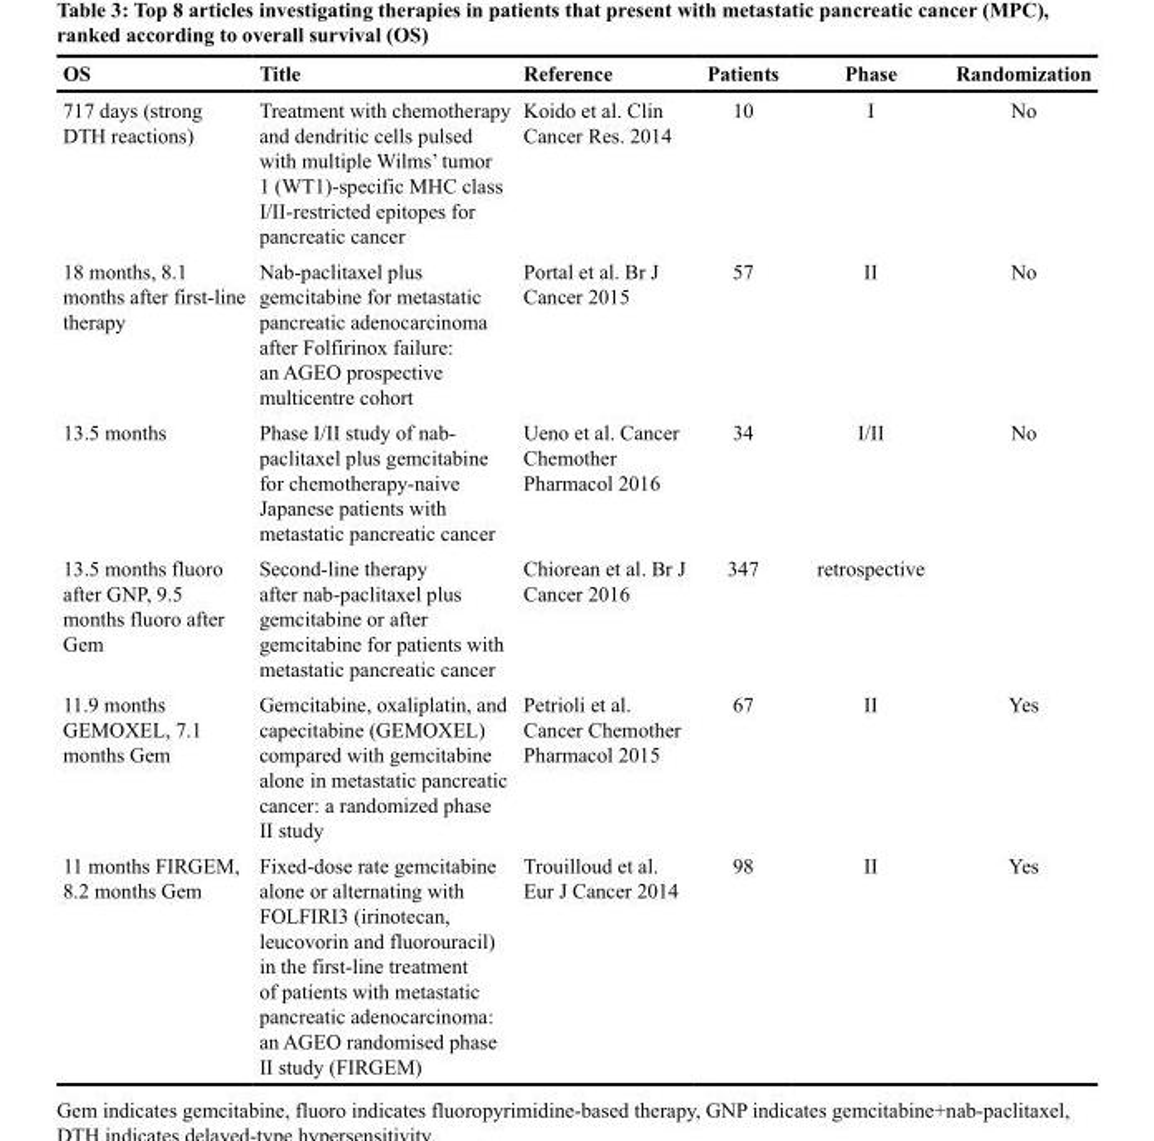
<table><thead><tr><td>OS</td><td>Title</td><td>Reference</td><td>Patients</td><td>Phase</td><td>Randomization</td></tr></thead><tbody><tr><td>717 days (strong DTH reactions)</td><td>Treatment with chemotherapy and dendritic cells pulsed with multiple Wilms’ tumor 1 (WT1)-specific MHC class I/II-restricted epitopes for pancreatic cancer</td><td>Koido et al. Clin Cancer Res. 2014</td><td>10</td><td>I</td><td>No</td></tr><tr><td>18 months, 8.1 months after first-line therapy</td><td>Nab-paclitaxel plus gemcitabine for metastatic pancreatic adenocarcinoma after Folfirinox failure: an AGEO prospective multicentre cohort</td><td>Portal et al. Br J Cancer 2015</td><td>57</td><td>II</td><td>No</td></tr><tr><td>13.5 months</td><td>Phase I/II study of nab- paclitaxel plus gemcitabine for chemotherapy-naive Japanese patients with metastatic pancreatic cancer</td><td>Ueno et al. Cancer Chemother Pharmacol 2016</td><td>34</td><td>I/II</td><td>No</td></tr><tr><td>13.5 months fluoro after GNP, 9.5 months fluoro after Gem</td><td>Second-line therapy after nab-paclitaxel plus gemcitabine or after gemcitabine for patients with metastatic pancreatic cancer</td><td>Chiorean et al. Br J Cancer 2016</td><td>347</td><td>retrospective</td><td></td></tr><tr><td>11.9 months GEMOXEL, 7.1 months Gem</td><td>Gemcitabine, oxaliplatin, and capecitabine (GEMOXEL) compared with gemcitabine alone in metastatic pancreatic cancer: a randomized phase II study</td><td>Petrioli et al. Cancer Chemother Pharmacol 2015</td><td>67</td><td>II</td><td>Yes</td></tr><tr><td>11 months FIRGEM, 8.2 months Gem</td><td>Fixed-dose rate gemcitabine alone or alternating with FOLFIRI3 (irinotecan, leucovorin and fluorouracil) in the first-line treatment of patients with metastatic pancreatic adenocarcinoma: an AGEO randomised phase II study (FIRGEM)</td><td>Trouilloud et al. Eur J Cancer 2014</td><td>98</td><td>II</td><td>Yes</td></tr></tbody></table>